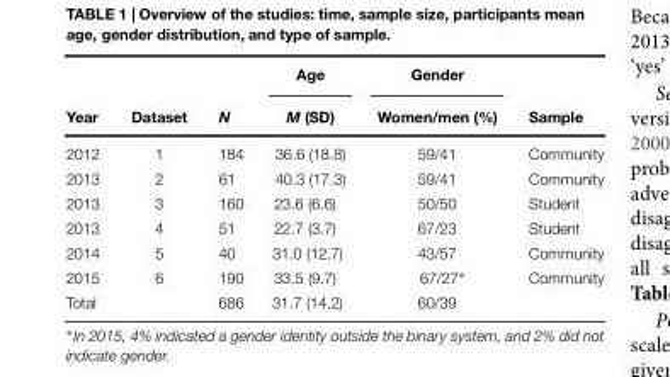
<table><thead><tr><td rowspan="2">Year</td><td rowspan="2">Dataset</td><td rowspan="2">N</td><td rowspan="2">Age M (SD)</td><td rowspan="2">Gender Women/men (%)</td><td rowspan="2">Sample</td></tr><tr></tr></thead><tbody><tr><td>2012</td><td>1</td><td>184</td><td>36.6 (18.8)</td><td>59/41</td><td>Community</td></tr><tr><td>2013</td><td>2</td><td>61</td><td>40.3 (17.3)</td><td>59/41</td><td>Community</td></tr><tr><td>2013</td><td>3</td><td>160</td><td>23.6 (6.6)</td><td>50/50</td><td>Student</td></tr><tr><td>2013</td><td>4</td><td>51</td><td>22.7 (3.7)</td><td>67/23</td><td>Student</td></tr><tr><td>2014</td><td>5</td><td>40</td><td>31.0 (12.7)</td><td>43/57</td><td>Community</td></tr><tr><td>2015</td><td>6</td><td>190</td><td>33.5 (9.7)</td><td>67/27∗</td><td>Community</td></tr><tr><td>Total</td><td></td><td>686</td><td>31.7 (14.2)</td><td>60/39</td><td></td></tr></tbody></table>